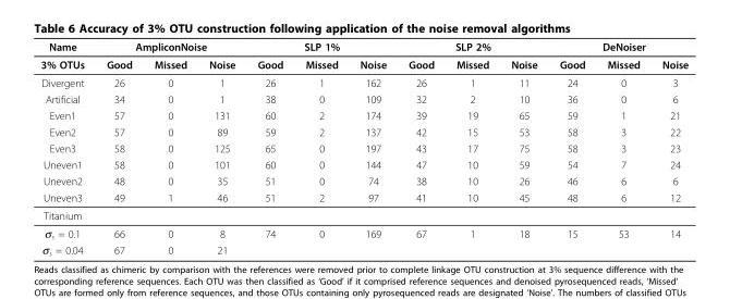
<table><thead><tr><td rowspan="2">Name 3% OTUs</td><td colspan="3">AmpliconNoise</td><td colspan="3">SLP 1%</td><td colspan="3">SLP 2%</td><td colspan="3">DeNoiser</td></tr><tr><td>Good</td><td>Missed</td><td>Noise</td><td>Good</td><td>Missed</td><td>Noise</td><td>Good</td><td>Missed</td><td>Noise</td><td>Good</td><td>Missed</td><td>Noise</td></tr></thead><tbody><tr><td>Divergent</td><td>26</td><td>0</td><td>1</td><td>26</td><td>1</td><td>162</td><td>26</td><td>1</td><td>11</td><td>24</td><td>0</td><td>3</td></tr><tr><td>Artificial</td><td>34</td><td>0</td><td>1</td><td>38</td><td>0</td><td>109</td><td>32</td><td>2</td><td>10</td><td>36</td><td>0</td><td>6</td></tr><tr><td>Even1</td><td>57</td><td>0</td><td>131</td><td>60</td><td>2</td><td>174</td><td>39</td><td>19</td><td>65</td><td>59</td><td>1</td><td>21</td></tr><tr><td>Even2</td><td>57</td><td>0</td><td>89</td><td>59</td><td>2</td><td>137</td><td>42</td><td>15</td><td>53</td><td>58</td><td>3</td><td>22</td></tr><tr><td>Even3</td><td>58</td><td>0</td><td>125</td><td>65</td><td>0</td><td>197</td><td>43</td><td>17</td><td>75</td><td>58</td><td>3</td><td>23</td></tr><tr><td>Uneven1</td><td>58</td><td>0</td><td>101</td><td>60</td><td>0</td><td>144</td><td>47</td><td>10</td><td>59</td><td>54</td><td>7</td><td>24</td></tr><tr><td>Uneven2</td><td>48</td><td>0</td><td>35</td><td>51</td><td>0</td><td>74</td><td>38</td><td>10</td><td>26</td><td>46</td><td>6</td><td>6</td></tr><tr><td>Uneven3</td><td>49</td><td>1</td><td>46</td><td>51</td><td>2</td><td>97</td><td>41</td><td>10</td><td>45</td><td>48</td><td>6</td><td>12</td></tr><tr><td colspan="13">Titanium</td></tr><tr><td>σ<sub>s</sub> = 0.1</td><td>66</td><td>0</td><td>8</td><td>74</td><td>0</td><td>169</td><td>67</td><td>1</td><td>18</td><td>15</td><td>53</td><td>14</td></tr><tr><td>σ<sub>s</sub> = 0.04</td><td>67</td><td>0</td><td>21</td><td></td><td></td><td></td><td></td><td></td><td></td><td></td><td></td><td></td></tr></tbody></table>